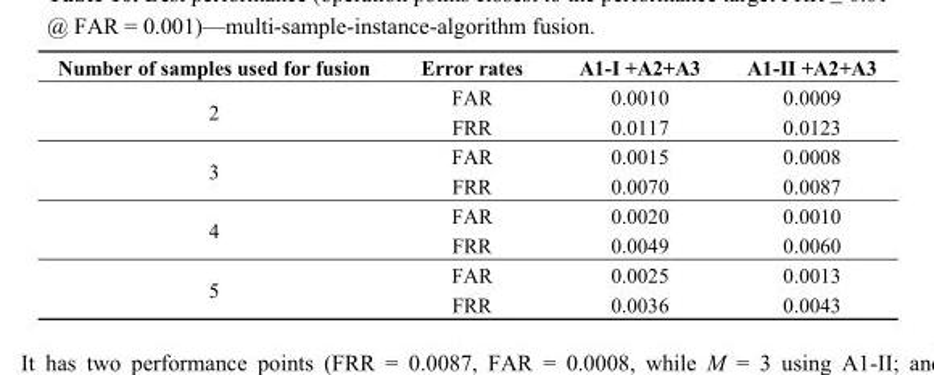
<table><thead><tr><td>Number of samples used for fusion</td><td>Error rates</td><td>A1-I +A2+A3</td><td>A1-II +A2+A3</td></tr></thead><tbody><tr><td rowspan="2">2</td><td>FAR</td><td>0.0010</td><td>0.0009</td></tr><tr><td>FRR</td><td>0.0117</td><td>0.0123</td></tr><tr><td rowspan="2">3</td><td>FAR</td><td>0.0015</td><td>0.0008</td></tr><tr><td>FRR</td><td>0.0070</td><td>0.0087</td></tr><tr><td rowspan="2">4</td><td>FAR</td><td>0.0020</td><td>0.0010</td></tr><tr><td>FRR</td><td>0.0049</td><td>0.0060</td></tr><tr><td rowspan="2">5</td><td>FAR</td><td>0.0025</td><td>0.0013</td></tr><tr><td>FRR</td><td>0.0036</td><td>0.0043</td></tr></tbody></table>